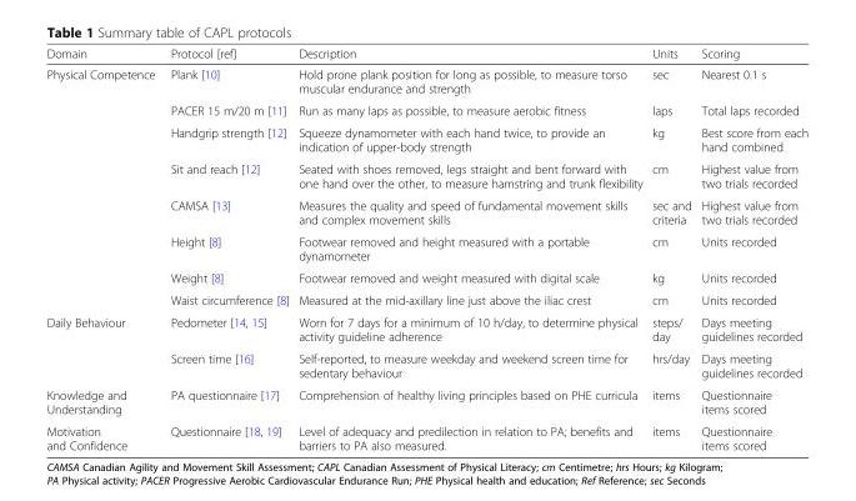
<table><thead><tr><td>Domain</td><td>Protocol [ref]</td><td>Description</td><td>Units</td><td>Scoring</td></tr></thead><tbody><tr><td rowspan="8">Physical Competence</td><td>Plank [10]</td><td>Hold prone plank position for long as possible, to measure torso muscular endurance and strength</td><td>sec</td><td>Nearest 0.1 s</td></tr><tr><td>PACER 15 m/20 m [11]</td><td>Run as many laps as possible, to measure aerobic fitness</td><td>laps</td><td>Total laps recorded</td></tr><tr><td>Handgrip strength [12]</td><td>Squeeze dynamometer with each hand twice, to provide an indication of upper-body strength</td><td>kg</td><td>Best score from each hand combined</td></tr><tr><td>Sit and reach [12]</td><td>Seated with shoes removed, legs straight and bent forward with one hand over the other, to measure hamstring and trunk flexibility</td><td>cm</td><td>Highest value from two trials recorded</td></tr><tr><td>CAMSA [13]</td><td>Measures the quality and speed of fundamental movement skills and complex movement skills</td><td>sec and criteria</td><td>Highest value from two trials recorded</td></tr><tr><td>Height [8]</td><td>Footwear removed and height measured with a portable dynamometer</td><td>cm</td><td>Units recorded</td></tr><tr><td>Weight [8]</td><td>Footwear removed and weight measured with digital scale</td><td>kg</td><td>Units recorded</td></tr><tr><td>Waist circumference [8]</td><td>Measured at the mid-axillary line just above the iliac crest</td><td>cm</td><td>Units recorded</td></tr><tr><td rowspan="2">Daily Behaviour</td><td>Pedometer [14, 15]</td><td>Worn for 7 days for a minimum of 10 h/day, to determine physical activity guideline adherence</td><td>steps/ day</td><td>Days meeting guidelines recorded</td></tr><tr><td>Screen time [16]</td><td>Self-reported, to measure weekday and weekend screen time for sedentary behaviour</td><td>hrs/day</td><td>Days meeting guidelines recorded</td></tr><tr><td>Knowledge and Understanding</td><td>PA questionnaire [17]</td><td>Comprehension of healthy living principles based on PHE curricula</td><td>items</td><td>Questionnaire items scored</td></tr><tr><td>Motivation and Confidence</td><td>Questionnaire [18, 19]</td><td>Level of adequacy and predilection in relation to PA; benefits and barriers to PA also measured.</td><td>items</td><td>Questionnaire items scored</td></tr></tbody></table>